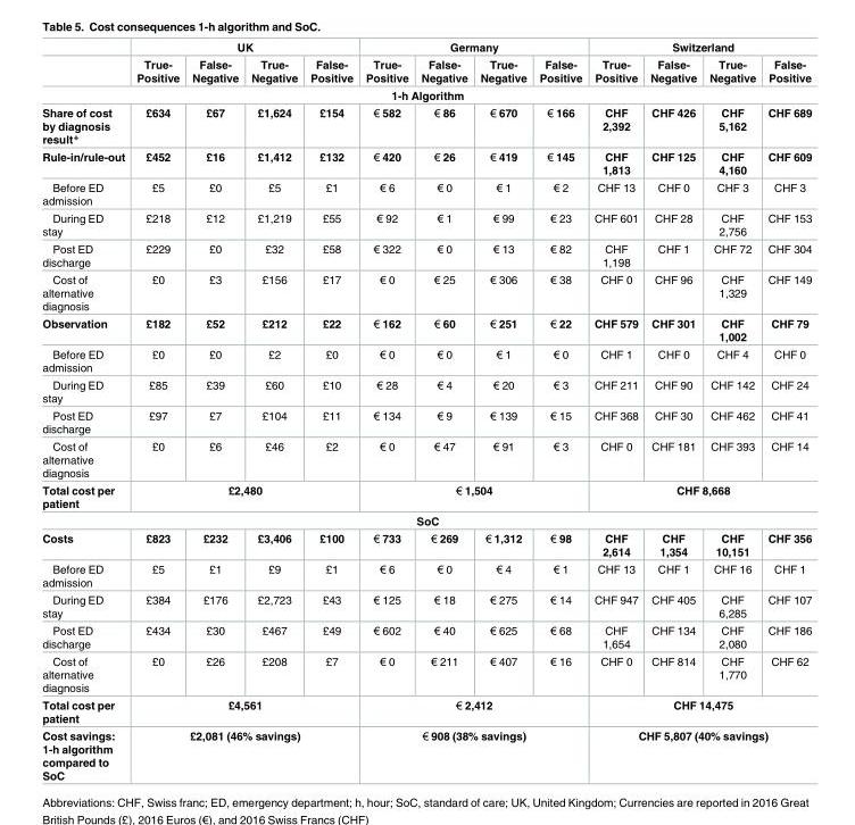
<table><thead><tr><td rowspan="2"></td><td colspan="4">UK</td><td colspan="4">Germany</td><td colspan="4">Switzerland</td></tr><tr><td>True- Positive</td><td>False- Negative</td><td>True- Negative</td><td>False- Positive</td><td>True- Positive</td><td>False- Negative</td><td>True- Negative</td><td>False- Positive</td><td>True- Positive</td><td>False- Negative</td><td>True- Negative</td><td>False- Positive</td></tr></thead><tbody><tr><td colspan="13">1-h Algorithm</td></tr><tr><td>Share of cost by diagnosis result*</td><td>£634</td><td>£67</td><td>£1,624</td><td>£154</td><td>€ 582</td><td>€ 86</td><td>€ 670</td><td>€ 166</td><td>CHF 2,392</td><td>CHF 426</td><td>CHF 5,162</td><td>CHF 689</td></tr><tr><td>Rule-in/rule-out</td><td>£452</td><td>£16</td><td>£1,412</td><td>£132</td><td>€ 420</td><td>€ 26</td><td>€ 419</td><td>€ 145</td><td>CHF 1,813</td><td>CHF 125</td><td>CHF 4,160</td><td>CHF 609</td></tr><tr><td>Before ED admission</td><td>£5</td><td>£0</td><td>£5</td><td>£1</td><td>€ 6</td><td>€ 0</td><td>€ 1</td><td>€ 2</td><td>CHF 13</td><td>CHF 0</td><td>CHF 3</td><td>CHF 3</td></tr><tr><td>During ED stay</td><td>£218</td><td>£12</td><td>£1,219</td><td>£55</td><td>€ 92</td><td>€ 1</td><td>€ 99</td><td>€ 23</td><td>CHF 601</td><td>CHF 28</td><td>CHF 2,756</td><td>CHF 153</td></tr><tr><td>Post ED discharge</td><td>£229</td><td>£0</td><td>£32</td><td>£58</td><td>€ 322</td><td>€ 0</td><td>€ 13</td><td>€ 82</td><td>CHF 1,198</td><td>CHF 1</td><td>CHF 72</td><td>CHF 304</td></tr><tr><td>Cost of alternative diagnosis</td><td>£0</td><td>£3</td><td>£156</td><td>£17</td><td>€ 0</td><td>€ 25</td><td>€ 306</td><td>€ 38</td><td>CHF 0</td><td>CHF 96</td><td>CHF 1,329</td><td>CHF 149</td></tr><tr><td>Observation</td><td>£182</td><td>£52</td><td>£212</td><td>£22</td><td>€ 162</td><td>€ 60</td><td>€ 251</td><td>€ 22</td><td>CHF 579</td><td>CHF 301</td><td>CHF 1,002</td><td>CHF 79</td></tr><tr><td>Before ED admission</td><td>£0</td><td>£0</td><td>£2</td><td>£0</td><td>€ 0</td><td>€ 0</td><td>€ 1</td><td>€ 0</td><td>CHF 1</td><td>CHF 0</td><td>CHF 4</td><td>CHF 0</td></tr><tr><td>During ED stay</td><td>£85</td><td>£39</td><td>£60</td><td>£10</td><td>€ 28</td><td>€ 4</td><td>€ 20</td><td>€ 3</td><td>CHF 211</td><td>CHF 90</td><td>CHF 142</td><td>CHF 24</td></tr><tr><td>Post ED discharge</td><td>£97</td><td>£7</td><td>£104</td><td>£11</td><td>€ 134</td><td>€ 9</td><td>€ 139</td><td>€ 15</td><td>CHF 368</td><td>CHF 30</td><td>CHF 462</td><td>CHF 41</td></tr><tr><td>Cost of alternative diagnosis</td><td>£0</td><td>£6</td><td>£46</td><td>£2</td><td>€ 0</td><td>€ 47</td><td>€ 91</td><td>€ 3</td><td>CHF 0</td><td>CHF 181</td><td>CHF 393</td><td>CHF 14</td></tr><tr><td>Total cost per patient</td><td colspan="4">£2,480</td><td colspan="4">€ 1,504</td><td colspan="4">CHF 8,668</td></tr><tr><td colspan="13">SoC</td></tr><tr><td>Costs</td><td>£823</td><td>£232</td><td>£3,406</td><td>£100</td><td>€ 733</td><td>€ 269</td><td>€ 1,312</td><td>€ 98</td><td>CHF 2,614</td><td>CHF 1,354</td><td>CHF 10,151</td><td>CHF 356</td></tr><tr><td>Before ED admission</td><td>£5</td><td>£1</td><td>£9</td><td>£1</td><td>€ 6</td><td>€ 0</td><td>€ 4</td><td>€ 1</td><td>CHF 13</td><td>CHF 1</td><td>CHF 16</td><td>CHF 1</td></tr><tr><td>During ED stay</td><td>£384</td><td>£176</td><td>£2,723</td><td>£43</td><td>€ 125</td><td>€ 18</td><td>€ 275</td><td>€ 14</td><td>CHF 947</td><td>CHF 405</td><td>CHF 6,285</td><td>CHF 107</td></tr><tr><td>Post ED discharge</td><td>£434</td><td>£30</td><td>£467</td><td>£49</td><td>€ 602</td><td>€ 40</td><td>€ 625</td><td>€ 68</td><td>CHF 1,654</td><td>CHF 134</td><td>CHF 2,080</td><td>CHF 186</td></tr><tr><td>Cost of alternative diagnosis</td><td>£0</td><td>£26</td><td>£208</td><td>£7</td><td>€ 0</td><td>€ 211</td><td>€ 407</td><td>€ 16</td><td>CHF 0</td><td>CHF 814</td><td>CHF 1,770</td><td>CHF 62</td></tr><tr><td>Total cost per patient</td><td colspan="4">£4,561</td><td colspan="4">€ 2,412</td><td colspan="4">CHF 14,475</td></tr><tr><td>Cost savings: 1-h algorithm compared to SoC</td><td colspan="4">£2,081 (46% savings)</td><td colspan="4">€ 908 (38% savings)</td><td colspan="4">CHF 5,807 (40% savings)</td></tr></tbody></table>